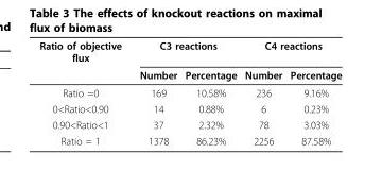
<table><thead><tr><td rowspan="2">Ratio of objective flux</td><td colspan="2">C3 reactions</td><td colspan="2">C4 reactions</td></tr><tr><td>Number</td><td>Percentage</td><td>Number</td><td>Percentage</td></tr></thead><tbody><tr><td>Ratio ≈0</td><td>169</td><td>10.58%</td><td>236</td><td>9.16%</td></tr><tr><td>0&lt;Ratio&lt;0.90</td><td>14</td><td>0.88%</td><td>6</td><td>0.23%</td></tr><tr><td>0.90&lt;Ratio&lt;1</td><td>37</td><td>2.32%</td><td>78</td><td>3.03%</td></tr><tr><td>Ratio = 1</td><td>1378</td><td>86.23%</td><td>2256</td><td>87.58%</td></tr></tbody></table>